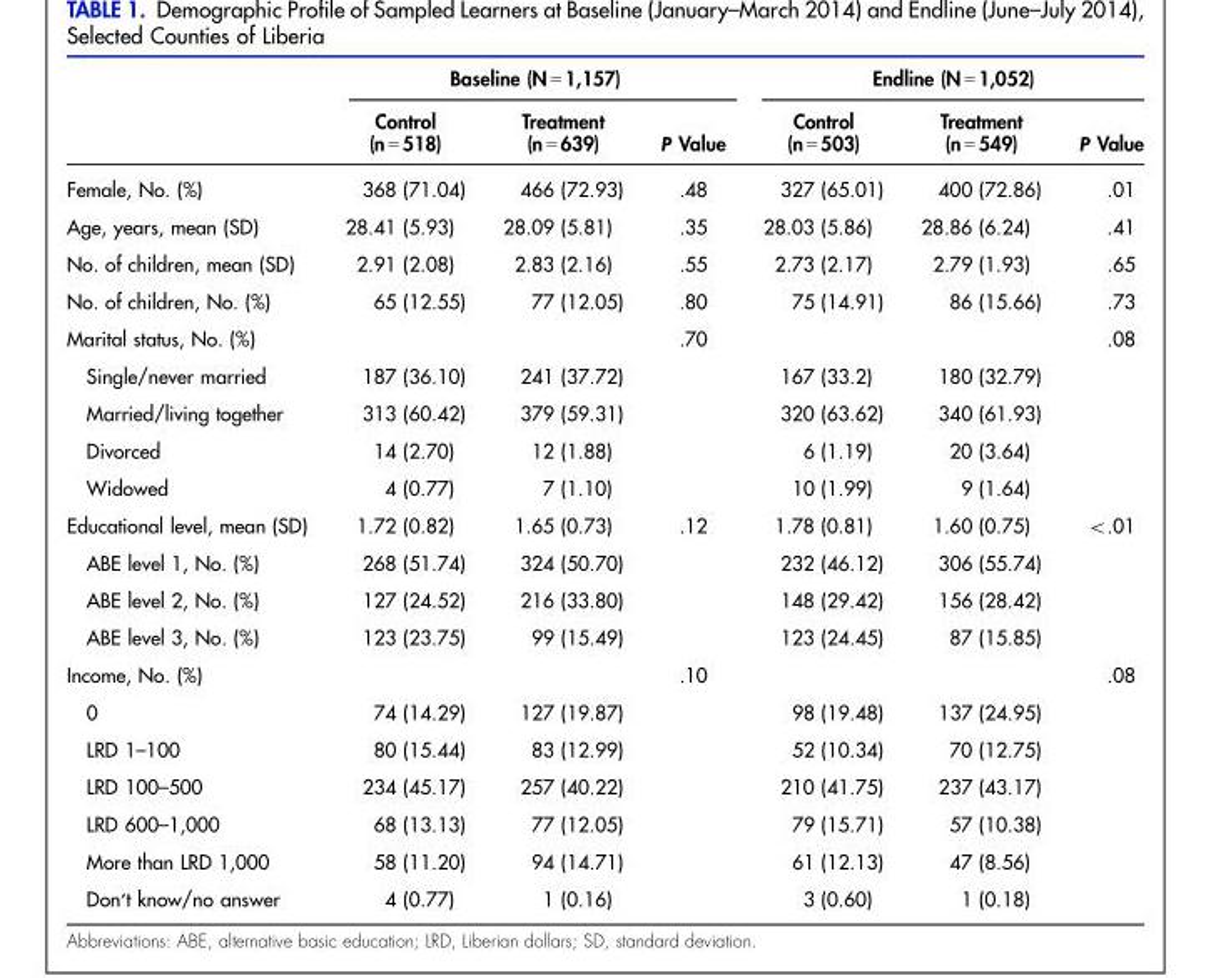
<table><thead><tr><td rowspan="2"></td><td colspan="3">Baseline (N = 1,157)</td><td colspan="3">Endline (N = 1,052)</td></tr><tr><td>Control (n = 518)</td><td>Treatment (n = 639)</td><td>P Value</td><td>Control (n = 503)</td><td>Treatment (n = 549)</td><td>P Value</td></tr></thead><tbody><tr><td>Female, No. (%)</td><td>368 (71.04)</td><td>466 (72.93)</td><td>.48</td><td>327 (65.01)</td><td>400 (72.86)</td><td>.01</td></tr><tr><td>Age, years, mean (SD)</td><td>28.41 (5.93)</td><td>28.09 (5.81)</td><td>.35</td><td>28.03 (5.86)</td><td>28.86 (6.24)</td><td>.41</td></tr><tr><td>No. of children, mean (SD)</td><td>2.91 (2.08)</td><td>2.83 (2.16)</td><td>.55</td><td>2.73 (2.17)</td><td>2.79 (1.93)</td><td>.65</td></tr><tr><td>No. of children, No. (%)</td><td>65 (12.55)</td><td>77 (12.05)</td><td>.80</td><td>75 (14.91)</td><td>86 (15.66)</td><td>.73</td></tr><tr><td>Marital status, No. (%)</td><td></td><td></td><td>.70</td><td></td><td></td><td>.08</td></tr><tr><td>Single/never married</td><td>187 (36.10)</td><td>241 (37.72)</td><td></td><td>167 (33.2)</td><td>180 (32.79)</td><td></td></tr><tr><td>Married/living together</td><td>313 (60.42)</td><td>379 (59.31)</td><td></td><td>320 (63.62)</td><td>340 (61.93)</td><td></td></tr><tr><td>Divorced</td><td>14 (2.70)</td><td>12 (1.88)</td><td></td><td>6 (1.19)</td><td>20 (3.64)</td><td></td></tr><tr><td>Widowed</td><td>4 (0.77)</td><td>7 (1.10)</td><td></td><td>10 (1.99)</td><td>9 (1.64)</td><td></td></tr><tr><td>Educational level, mean (SD)</td><td>1.72 (0.82)</td><td>1.65 (0.73)</td><td>.12</td><td>1.78 (0.81)</td><td>1.60 (0.75)</td><td>&lt;.01</td></tr><tr><td>ABE level 1, No. (%)</td><td>268 (51.74)</td><td>324 (50.70)</td><td></td><td>232 (46.12)</td><td>306 (55.74)</td><td></td></tr><tr><td>ABE level 2, No. (%)</td><td>127 (24.52)</td><td>216 (33.80)</td><td></td><td>148 (29.42)</td><td>156 (28.42)</td><td></td></tr><tr><td>ABE level 3, No. (%)</td><td>123 (23.75)</td><td>99 (15.49)</td><td></td><td>123 (24.45)</td><td>87 (15.85)</td><td></td></tr><tr><td>Income, No. (%)</td><td></td><td></td><td>.10</td><td></td><td></td><td>.08</td></tr><tr><td>0</td><td>74 (14.29)</td><td>127 (19.87)</td><td></td><td>98 (19.48)</td><td>137 (24.95)</td><td></td></tr><tr><td>LRD 1–100</td><td>80 (15.44)</td><td>83 (12.99)</td><td></td><td>52 (10.34)</td><td>70 (12.75)</td><td></td></tr><tr><td>LRD 100–500</td><td>234 (45.17)</td><td>257 (40.22)</td><td></td><td>210 (41.75)</td><td>237 (43.17)</td><td></td></tr><tr><td>LRD 600–1,000</td><td>68 (13.13)</td><td>77 (12.05)</td><td></td><td>79 (15.71)</td><td>57 (10.38)</td><td></td></tr><tr><td>More than LRD 1,000</td><td>58 (11.20)</td><td>94 (14.71)</td><td></td><td>61 (12.13)</td><td>47 (8.56)</td><td></td></tr><tr><td>Don’t know/no answer</td><td>4 (0.77)</td><td>1 (0.16)</td><td></td><td>3 (0.60)</td><td>1 (0.18)</td><td></td></tr></tbody></table>